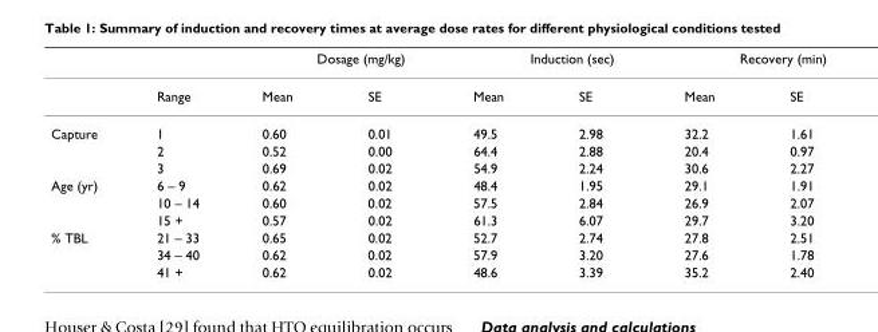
<table><thead><tr><td rowspan="2"></td><td rowspan="2">Range</td><td colspan="2">Dosage (mg/kg)</td><td colspan="2">Induction (sec)</td><td colspan="2">Recovery (min)</td></tr><tr><td>Mean</td><td>SE</td><td>Mean</td><td>SE</td><td>Mean</td><td>SE</td></tr></thead><tbody><tr><td rowspan="3">Capture</td><td>1</td><td>0.60</td><td>0.01</td><td>49.5</td><td>2.98</td><td>32.2</td><td>1.61</td></tr><tr><td>2</td><td>0.52</td><td>0.00</td><td>64.4</td><td>2.88</td><td>20.4</td><td>0.97</td></tr><tr><td>3</td><td>0.69</td><td>0.02</td><td>54.9</td><td>2.24</td><td>30.6</td><td>2.27</td></tr><tr><td rowspan="3">Age (yr)</td><td>6 – 9</td><td>0.62</td><td>0.02</td><td>48.4</td><td>1.95</td><td>29.1</td><td>1.91</td></tr><tr><td>10 – 14</td><td>0.60</td><td>0.02</td><td>57.5</td><td>2.84</td><td>26.9</td><td>2.07</td></tr><tr><td>15 +</td><td>0.57</td><td>0.02</td><td>61.3</td><td>6.07</td><td>29.7</td><td>3.20</td></tr><tr><td rowspan="3">% TBL</td><td>21 – 33</td><td>0.65</td><td>0.02</td><td>52.7</td><td>2.74</td><td>27.8</td><td>2.51</td></tr><tr><td>34 – 40</td><td>0.62</td><td>0.02</td><td>57.9</td><td>3.20</td><td>27.6</td><td>1.78</td></tr><tr><td>41 +</td><td>0.62</td><td>0.02</td><td>48.6</td><td>3.39</td><td>35.2</td><td>2.40</td></tr></tbody></table>